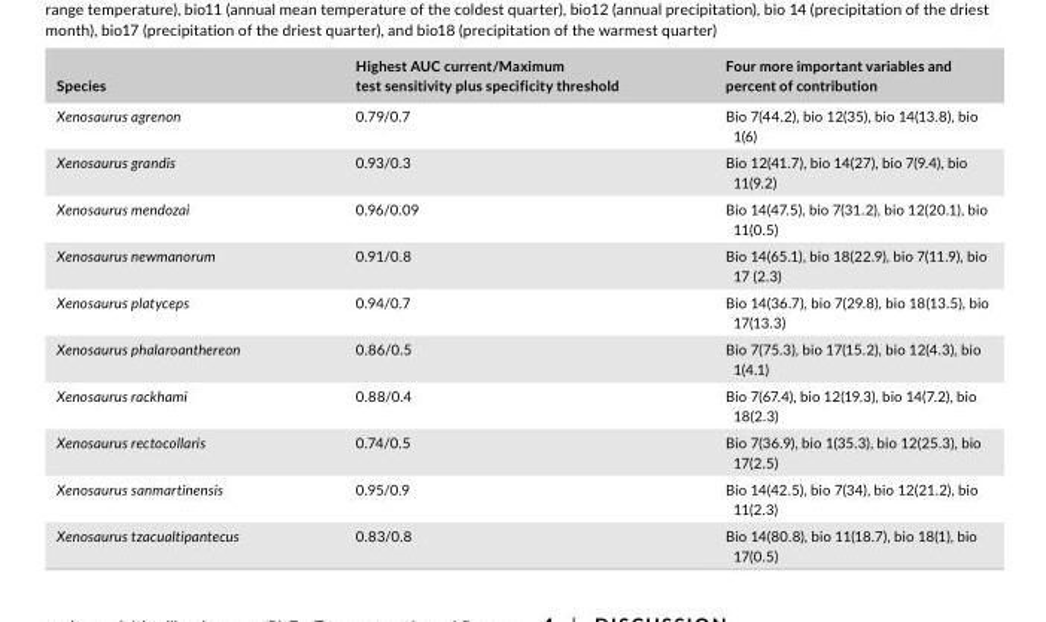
<table><thead><tr><td>Species</td><td>Highest AUC current/Maximum test sensitivity plus specificity threshold</td><td>Four more important variables and percent of contribution</td></tr></thead><tbody><tr><td>Xenosaurus agrenon</td><td>0.79/0.7</td><td>Bio 7(44.2), bio 12(35), bio 14(13.8), bio 1(6)</td></tr><tr><td>Xenosaurus grandis</td><td>0.93/0.3</td><td>Bio 12(41.7), bio 14(27), bio 7(9.4), bio 11(9.2)</td></tr><tr><td>Xenosaurus mendozai</td><td>0.96/0.09</td><td>Bio 14(47.5), bio 7(31.2), bio 12(20.1), bio 11(0.5)</td></tr><tr><td>Xenosaurus newmanorum</td><td>0.91/0.8</td><td>Bio 14(65.1), bio 18(22.9), bio 7(11.9), bio 17 (2.3)</td></tr><tr><td>Xenosaurus platyceps</td><td>0.94/0.7</td><td>Bio 14(36.7), bio 7(29.8), bio 18(13.5), bio 17(13.3)</td></tr><tr><td>Xenosaurus phalaroanthereon</td><td>0.86/0.5</td><td>Bio 7(75.3), bio 17(15.2), bio 12(4.3), bio 1(4.1)</td></tr><tr><td>Xenosaurus rackhami</td><td>0.88/0.4</td><td>Bio 7(67.4), bio 12(19.3), bio 14(7.2), bio 18(2.3)</td></tr><tr><td>Xenosaurus rectocollaris</td><td>0.74/0.5</td><td>Bio 7(36.9), bio 1(35.3), bio 12(25.3), bio 17(2.5)</td></tr><tr><td>Xenosaurus sanmartinensis</td><td>0.95/0.9</td><td>Bio 14(42.5), bio 7(34), bio 12(21.2), bio 11(2.3)</td></tr><tr><td>Xenosaurus tzacualtipantecus</td><td>0.83/0.8</td><td>Bio 14(80.8), bio 11(18.7), bio 18(1), bio 17(0.5)</td></tr></tbody></table>